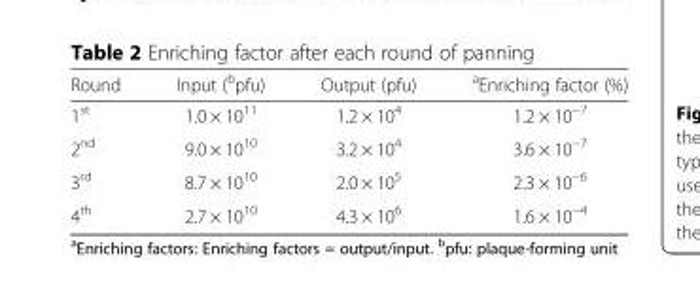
<table><thead><tr><td>Round</td><td>Input (<sup>b</sup>pfu)</td><td>Output (pfu)</td><td><sup>a</sup>Enriching factor (%)</td></tr></thead><tbody><tr><td>1<sup>st</sup></td><td>1.0 × 10<sup>11</sup></td><td>1.2 × 10<sup>4</sup></td><td>1.2 × 10<sup>−7</sup></td></tr><tr><td>2<sup>nd</sup></td><td>9.0 × 10<sup>10</sup></td><td>3.2 × 10<sup>4</sup></td><td>3.6 × 10<sup>−7</sup></td></tr><tr><td>3<sup>rd</sup></td><td>8.7 × 10<sup>10</sup></td><td>2.0 × 10<sup>5</sup></td><td>2.3 × 10<sup>−6</sup></td></tr><tr><td>4<sup>th</sup></td><td>2.7 × 10<sup>10</sup></td><td>4.3 × 10<sup>6</sup></td><td>1.6 × 10<sup>−4</sup></td></tr></tbody></table>